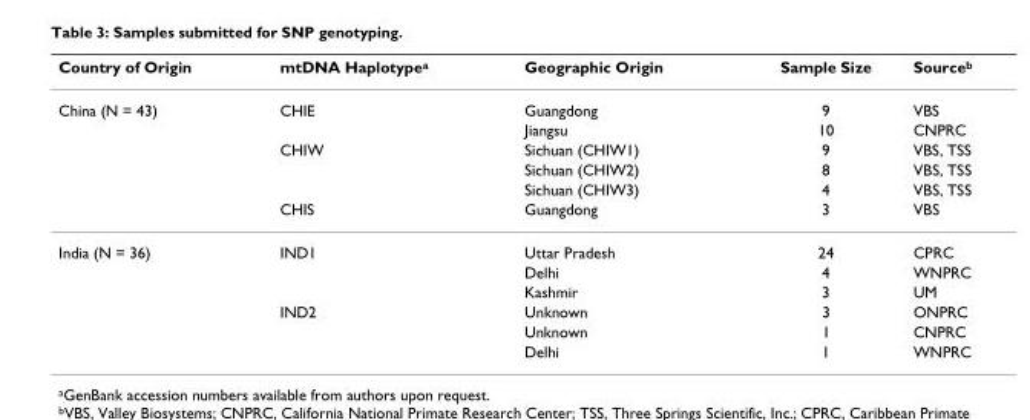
<table><thead><tr><td>Country of Origin</td><td>mtDNA Haplotype<sup>a</sup></td><td>Geographic Origin</td><td>Sample Size</td><td>Source<sup>b</sup></td></tr></thead><tbody><tr><td rowspan="6">China (N = 43)</td><td>CHIE</td><td>Guangdong</td><td>9</td><td>VBS</td></tr><tr><td></td><td>Jiangsu</td><td>10</td><td>CNPRC</td></tr><tr><td>CHIW</td><td>Sichuan (CHIW1)</td><td>9</td><td>VBS, TSS</td></tr><tr><td></td><td>Sichuan (CHIW2)</td><td>8</td><td>VBS, TSS</td></tr><tr><td></td><td>Sichuan (CHIW3)</td><td>4</td><td>VBS, TSS</td></tr><tr><td>CHIS</td><td>Guangdong</td><td>3</td><td>VBS</td></tr><tr><td rowspan="6">India (N = 36)</td><td>IND1</td><td>Uttar Pradesh</td><td>24</td><td>CPRC</td></tr><tr><td></td><td>Delhi</td><td>4</td><td>WNPRC</td></tr><tr><td></td><td>Kashmir</td><td>3</td><td>UM</td></tr><tr><td>IND2</td><td>Unknown</td><td>3</td><td>ONPRC</td></tr><tr><td></td><td>Unknown</td><td>1</td><td>CNPRC</td></tr><tr><td></td><td>Delhi</td><td>1</td><td>WNPRC</td></tr></tbody></table>